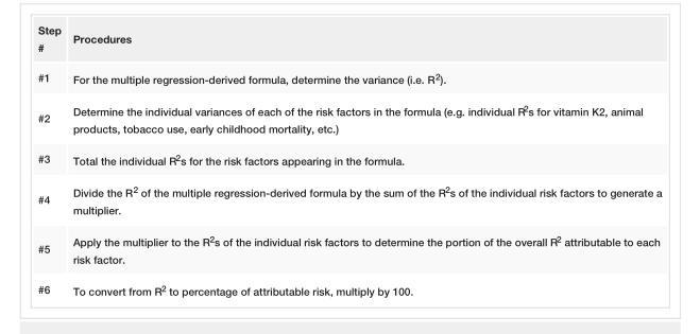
<table><tbody><tr><td>#</td><td>Procedures</td></tr><tr><td>#1</td><td>For the multiple regression-derived formula, determine the variance (i.e. R<sup>2</sup>).</td></tr><tr><td>#2</td><td>Determine the individual variances of each of the risk factors in the formula (e.g. individual R<sup>2</sup>s for vitamin K2, animal products, tobacco use, early childhood mortality, etc.)</td></tr><tr><td>#3</td><td>Total the individual R<sup>2</sup>s for the risk factors appearing in the formula.</td></tr><tr><td>#4</td><td>Divide the R<sup>2</sup> of the multiple regression-derived formula by the sum of the R<sup>2</sup>s of the individual risk factors to generate a multiplier.</td></tr><tr><td>#5</td><td>Apply the multiplier to the R<sup>2</sup>s of the individual risk factors to determine the portion of the overall R<sup>2</sup> attributable to each risk factor.</td></tr><tr><td>#6</td><td>To convert from R<sup>2</sup> to percentage of attributable risk, multiply by 100.</td></tr></tbody></table>